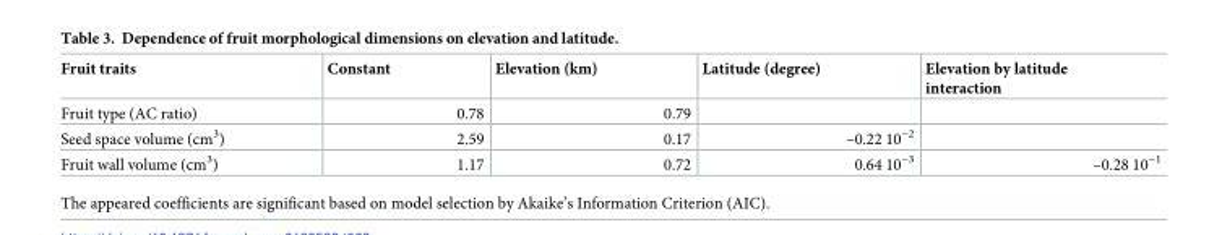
<table><thead><tr><td>Fruit traits</td><td>Constant</td><td>Elevation (km)</td><td>Latitude (degree)</td><td>Elevation by latitude interaction</td></tr></thead><tbody><tr><td>Fruit type (AC ratio)</td><td>0.78</td><td>0.79</td><td></td><td></td></tr><tr><td>Seed space volume (cm<sup>3</sup>)</td><td>2.59</td><td>0.17</td><td>–0.22 10<sup>−2</sup></td><td></td></tr><tr><td>Fruit wall volume (cm<sup>3</sup>)</td><td>1.17</td><td>0.72</td><td>0.64 10<sup>−3</sup></td><td>–0.28 10<sup>−1</sup></td></tr></tbody></table>